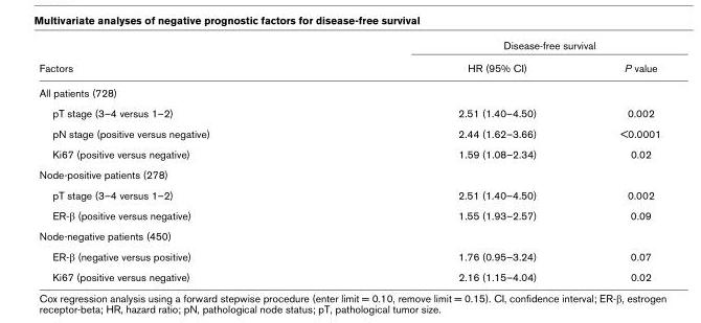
<table><thead><tr><td rowspan="2">Factors</td><td colspan="2">Disease-free survival</td></tr><tr><td>HR (95% CI)</td><td>P value</td></tr></thead><tbody><tr><td colspan="3">All patients (728)</td></tr><tr><td>pT stage (3–4 versus 1–2)</td><td>2.51 (1.40–4.50)</td><td>0.002</td></tr><tr><td>pN stage (positive versus negative)</td><td>2.44 (1.62–3.66)</td><td>&lt;0.0001</td></tr><tr><td>Ki67 (positive versus negative)</td><td>1.59 (1.08–2.34)</td><td>0.02</td></tr><tr><td colspan="3">Node-positive patients (278)</td></tr><tr><td>pT stage (3–4 versus 1–2)</td><td>2.51 (1.40–4.50)</td><td>0.002</td></tr><tr><td>ER-β (positive versus negative)</td><td>1.55 (1.93–2.57)</td><td>0.09</td></tr><tr><td colspan="3">Node-negative patients (450)</td></tr><tr><td>ER-β (negative versus positive)</td><td>1.76 (0.95–3.24)</td><td>0.07</td></tr><tr><td>Ki67 (positive versus negative)</td><td>2.16 (1.15–4.04)</td><td>0.02</td></tr></tbody></table>